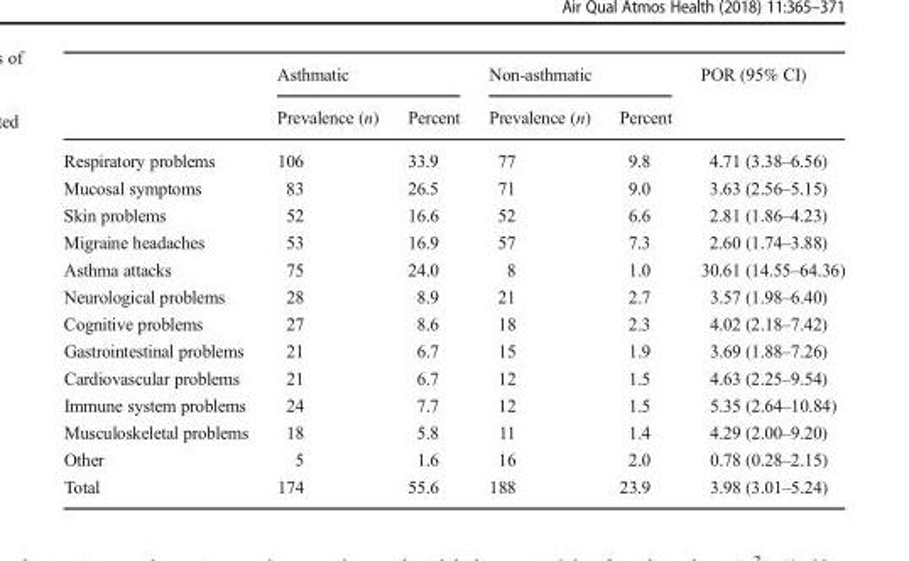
<table><thead><tr><td rowspan="2"></td><td colspan="2">Asthmatic</td><td colspan="2">Non-asthmatic</td><td rowspan="2">POR (95% CI)</td></tr><tr><td>Prevalence (n)</td><td>Percent</td><td>Prevalence (n)</td><td>Percent</td></tr></thead><tbody><tr><td>Respiratory problems</td><td>106</td><td>33.9</td><td>77</td><td>9.8</td><td>4.71 (3.38–6.56)</td></tr><tr><td>Mucosal symptoms</td><td>83</td><td>26.5</td><td>71</td><td>9.0</td><td>3.63 (2.56–5.15)</td></tr><tr><td>Skin problems</td><td>52</td><td>16.6</td><td>52</td><td>6.6</td><td>2.81 (1.86–4.23)</td></tr><tr><td>Migraine headaches</td><td>53</td><td>16.9</td><td>57</td><td>7.3</td><td>2.60 (1.74–3.88)</td></tr><tr><td>Asthma attacks</td><td>75</td><td>24.0</td><td>8</td><td>1.0</td><td>30.61 (14.55–64.36)</td></tr><tr><td>Neurological problems</td><td>28</td><td>8.9</td><td>21</td><td>2.7</td><td>3.57 (1.98–6.40)</td></tr><tr><td>Cognitive problems</td><td>27</td><td>8.6</td><td>18</td><td>2.3</td><td>4.02 (2.18–7.42)</td></tr><tr><td>Gastrointestinal problems</td><td>21</td><td>6.7</td><td>15</td><td>1.9</td><td>3.69 (1.88–7.26)</td></tr><tr><td>Cardiovascular problems</td><td>21</td><td>6.7</td><td>12</td><td>1.5</td><td>4.63 (2.25–9.54)</td></tr><tr><td>Immune system problems</td><td>24</td><td>7.7</td><td>12</td><td>1.5</td><td>5.35 (2.64–10.84)</td></tr><tr><td>Musculoskeletal problems</td><td>18</td><td>5.8</td><td>11</td><td>1.4</td><td>4.29 (2.00–9.20)</td></tr><tr><td>Other</td><td>5</td><td>1.6</td><td>16</td><td>2.0</td><td>0.78 (0.28–2.15)</td></tr><tr><td>Total</td><td>174</td><td>55.6</td><td>188</td><td>23.9</td><td>3.98 (3.01–5.24)</td></tr></tbody></table>